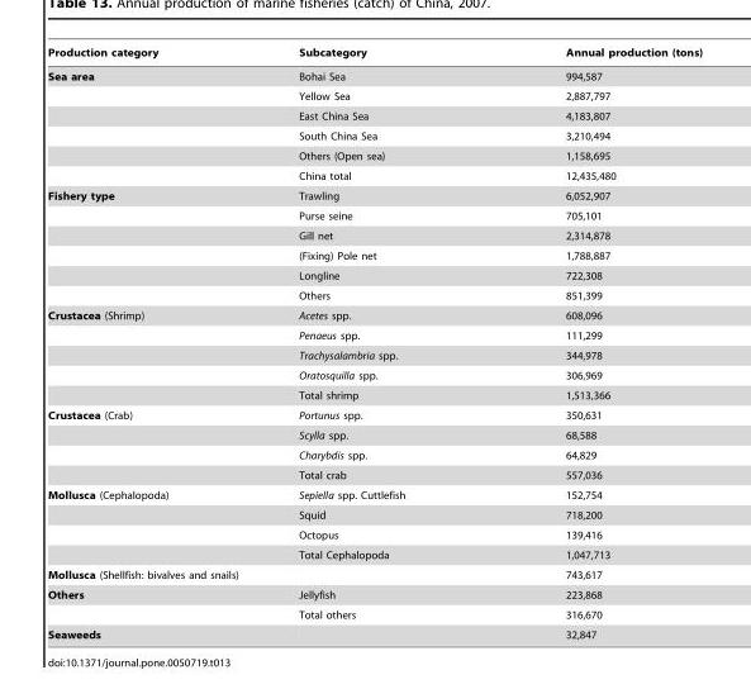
<table><thead><tr><td>Production category</td><td>Subcategory</td><td>Annual production (tons)</td></tr></thead><tbody><tr><td rowspan="6">Sea area</td><td>Bohai Sea</td><td>994,587</td></tr><tr><td>Yellow Sea</td><td>2,887,797</td></tr><tr><td>East China Sea</td><td>4,183,807</td></tr><tr><td>South China Sea</td><td>3,210,494</td></tr><tr><td>Others (Open sea)</td><td>1,158,695</td></tr><tr><td>China total</td><td>12,435,480</td></tr><tr><td rowspan="6">Fishery type</td><td>Trawling</td><td>6,052,907</td></tr><tr><td>Purse seine</td><td>705,101</td></tr><tr><td>Gill net</td><td>2,314,878</td></tr><tr><td>(Fixing) Pole net</td><td>1,788,887</td></tr><tr><td>Longline</td><td>722,308</td></tr><tr><td>Others</td><td>851,399</td></tr><tr><td rowspan="5">Crustacea (Shrimp)</td><td>Acetes spp.</td><td>608,096</td></tr><tr><td>Penaeus spp.</td><td>111,299</td></tr><tr><td>Trachysalambria spp.</td><td>344,978</td></tr><tr><td>Oratosquilla spp.</td><td>306,969</td></tr><tr><td>Total shrimp</td><td>1,513,366</td></tr><tr><td rowspan="4">Crustacea (Crab)</td><td>Portunus spp.</td><td>350,631</td></tr><tr><td>Scylla spp.</td><td>68,588</td></tr><tr><td>Charybdis spp.</td><td>64,829</td></tr><tr><td>Total crab</td><td>557,036</td></tr><tr><td rowspan="4">Mollusca (Cephalopoda)</td><td>Sepiella spp. Cuttlefish</td><td>152,754</td></tr><tr><td>Squid</td><td>718,200</td></tr><tr><td>Octopus</td><td>139,416</td></tr><tr><td>Total Cephalopoda</td><td>1,047,713</td></tr><tr><td>Mollusca (Shellfish: bivalves and snails)</td><td></td><td>743,617</td></tr><tr><td rowspan="2">Others</td><td>Jellyfish</td><td>223,868</td></tr><tr><td>Total others</td><td>316,670</td></tr><tr><td>Seaweeds</td><td></td><td>32,847</td></tr></tbody></table>